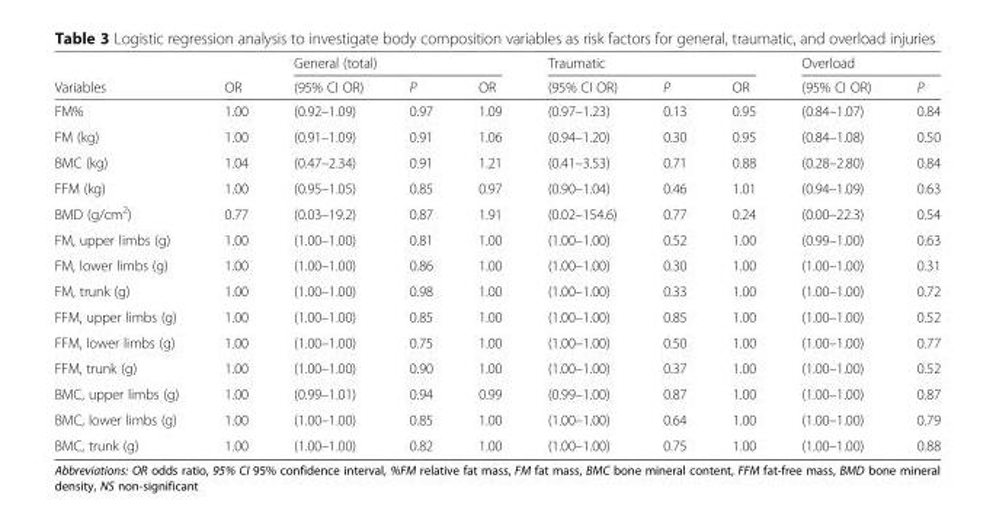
<table><thead><tr><td rowspan="2">Variables</td><td rowspan="2">OR</td><td colspan="3">General (total)</td><td colspan="3">Traumatic</td><td colspan="2">Overload</td></tr><tr><td>(95% CI OR)</td><td>P</td><td>OR</td><td>(95% CI OR)</td><td>P</td><td>OR</td><td>(95% CI OR)</td><td>P</td></tr></thead><tbody><tr><td>FM%</td><td>1.00</td><td>(0.92–1.09)</td><td>0.97</td><td>1.09</td><td>(0.97–1.23)</td><td>0.13</td><td>0.95</td><td>(0.84–1.07)</td><td>0.84</td></tr><tr><td>FM (kg)</td><td>1.00</td><td>(0.91–1.09)</td><td>0.91</td><td>1.06</td><td>(0.94–1.20)</td><td>0.30</td><td>0.95</td><td>(0.84–1.08)</td><td>0.50</td></tr><tr><td>BMC (kg)</td><td>1.04</td><td>(0.47–2.34)</td><td>0.91</td><td>1.21</td><td>(0.41–3.53)</td><td>0.71</td><td>0.88</td><td>(0.28–2.80)</td><td>0.84</td></tr><tr><td>FFM (kg)</td><td>1.00</td><td>(0.95–1.05)</td><td>0.85</td><td>0.97</td><td>(0.90–1.04)</td><td>0.46</td><td>1.01</td><td>(0.94–1.09)</td><td>0.63</td></tr><tr><td>BMD (g/cm<sup>2</sup>)</td><td>0.77</td><td>(0.03–19.2)</td><td>0.87</td><td>1.91</td><td>(0.02–154.6)</td><td>0.77</td><td>0.24</td><td>(0.00–22.3)</td><td>0.54</td></tr><tr><td>FM, upper limbs (g)</td><td>1.00</td><td>(1.00–1.00)</td><td>0.81</td><td>1.00</td><td>(1.00–1.00)</td><td>0.52</td><td>1.00</td><td>(0.99–1.00)</td><td>0.63</td></tr><tr><td>FM, lower limbs (g)</td><td>1.00</td><td>(1.00–1.00)</td><td>0.86</td><td>1.00</td><td>(1.00–1.00)</td><td>0.30</td><td>1.00</td><td>(1.00–1.00)</td><td>0.31</td></tr><tr><td>FM, trunk (g)</td><td>1.00</td><td>(1.00–1.00)</td><td>0.98</td><td>1.00</td><td>(1.00–1.00)</td><td>0.33</td><td>1.00</td><td>(1.00–1.00)</td><td>0.72</td></tr><tr><td>FFM, upper limbs (g)</td><td>1.00</td><td>(1.00–1.00)</td><td>0.85</td><td>1.00</td><td>(1.00–1.00)</td><td>0.85</td><td>1.00</td><td>(1.00–1.00)</td><td>0.52</td></tr><tr><td>FFM, lower limbs (g)</td><td>1.00</td><td>(1.00–1.00)</td><td>0.75</td><td>1.00</td><td>(1.00–1.00)</td><td>0.50</td><td>1.00</td><td>(1.00–1.00)</td><td>0.77</td></tr><tr><td>FFM, trunk (g)</td><td>1.00</td><td>(1.00–1.00)</td><td>0.90</td><td>1.00</td><td>(1.00–1.00)</td><td>0.37</td><td>1.00</td><td>(1.00–1.00)</td><td>0.52</td></tr><tr><td>BMC, upper limbs (g)</td><td>1.00</td><td>(0.99–1.01)</td><td>0.94</td><td>0.99</td><td>(0.99–1.00)</td><td>0.87</td><td>1.00</td><td>(1.00–1.00)</td><td>0.87</td></tr><tr><td>BMC, lower limbs (g)</td><td>1.00</td><td>(1.00–1.00)</td><td>0.85</td><td>1.00</td><td>(1.00–1.00)</td><td>0.64</td><td>1.00</td><td>(1.00–1.00)</td><td>0.79</td></tr><tr><td>BMC, trunk (g)</td><td>1.00</td><td>(1.00–1.00)</td><td>0.82</td><td>1.00</td><td>(1.00–1.00)</td><td>0.75</td><td>1.00</td><td>(1.00–1.00)</td><td>0.88</td></tr></tbody></table>